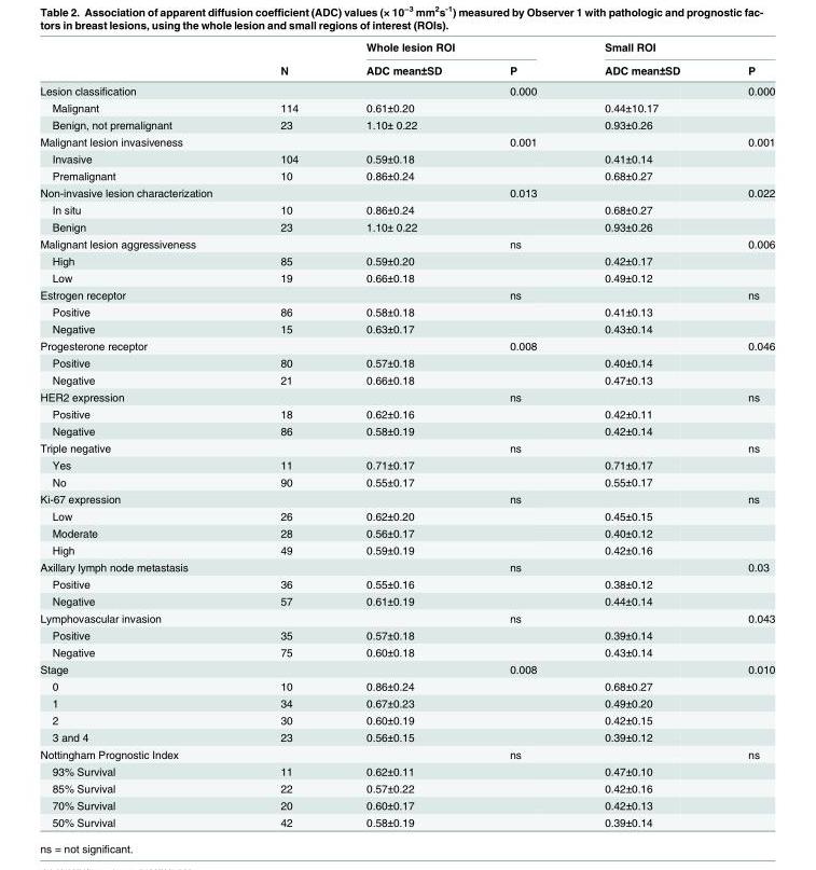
<table><thead><tr><td rowspan="2"></td><td rowspan="2">N</td><td colspan="2">Whole lesion ROI</td><td colspan="2">Small ROI</td></tr><tr><td>ADC mean±SD</td><td>P</td><td>ADC mean±SD</td><td>P</td></tr></thead><tbody><tr><td>Lesion classification</td><td></td><td></td><td>0.000</td><td></td><td>0.000</td></tr><tr><td>Malignant</td><td>114</td><td>0.61±0.20</td><td></td><td>0.44±10.17</td><td></td></tr><tr><td>Benign, not premalignant</td><td>23</td><td>1.10± 0.22</td><td></td><td>0.93±0.26</td><td></td></tr><tr><td>Malignant lesion invasiveness</td><td></td><td></td><td>0.001</td><td></td><td>0.001</td></tr><tr><td>Invasive</td><td>104</td><td>0.59±0.18</td><td></td><td>0.41±0.14</td><td></td></tr><tr><td>Premalignant</td><td>10</td><td>0.86±0.24</td><td></td><td>0.68±0.27</td><td></td></tr><tr><td>Non-invasive lesion characterization</td><td></td><td></td><td>0.013</td><td></td><td>0.022</td></tr><tr><td>In situ</td><td>10</td><td>0.86±0.24</td><td></td><td>0.68±0.27</td><td></td></tr><tr><td>Benign</td><td>23</td><td>1.10± 0.22</td><td></td><td>0.93±0.26</td><td></td></tr><tr><td>Malignant lesion aggressiveness</td><td></td><td></td><td>ns</td><td></td><td>0.006</td></tr><tr><td>High</td><td>85</td><td>0.59±0.20</td><td></td><td>0.42±0.17</td><td></td></tr><tr><td>Low</td><td>19</td><td>0.66±0.18</td><td></td><td>0.49±0.12</td><td></td></tr><tr><td>Estrogen receptor</td><td></td><td></td><td>ns</td><td></td><td>ns</td></tr><tr><td>Positive</td><td>86</td><td>0.58±0.18</td><td></td><td>0.41±0.13</td><td></td></tr><tr><td>Negative</td><td>15</td><td>0.63±0.17</td><td></td><td>0.43±0.14</td><td></td></tr><tr><td>Progesterone receptor</td><td></td><td></td><td>0.008</td><td></td><td>0.046</td></tr><tr><td>Positive</td><td>80</td><td>0.57±0.18</td><td></td><td>0.40±0.14</td><td></td></tr><tr><td>Negative</td><td>21</td><td>0.66±0.18</td><td></td><td>0.47±0.13</td><td></td></tr><tr><td>HER2 expression</td><td></td><td></td><td>ns</td><td></td><td>ns</td></tr><tr><td>Positive</td><td>18</td><td>0.62±0.16</td><td></td><td>0.42±0.11</td><td></td></tr><tr><td>Negative</td><td>86</td><td>0.58±0.19</td><td></td><td>0.42±0.14</td><td></td></tr><tr><td>Triple negative</td><td></td><td></td><td>ns</td><td></td><td>ns</td></tr><tr><td>Yes</td><td>11</td><td>0.71±0.17</td><td></td><td>0.71±0.17</td><td></td></tr><tr><td>No</td><td>90</td><td>0.55±0.17</td><td></td><td>0.55±0.17</td><td></td></tr><tr><td>Ki-67 expression</td><td></td><td></td><td>ns</td><td></td><td>ns</td></tr><tr><td>Low</td><td>26</td><td>0.62±0.20</td><td></td><td>0.45±0.15</td><td></td></tr><tr><td>Moderate</td><td>28</td><td>0.56±0.17</td><td></td><td>0.40±0.12</td><td></td></tr><tr><td>High</td><td>49</td><td>0.59±0.19</td><td></td><td>0.42±0.16</td><td></td></tr><tr><td>Axillary lymph node metastasis</td><td></td><td></td><td>ns</td><td></td><td>0.03</td></tr><tr><td>Positive</td><td>36</td><td>0.55±0.16</td><td></td><td>0.38±0.12</td><td></td></tr><tr><td>Negative</td><td>57</td><td>0.61±0.19</td><td></td><td>0.44±0.14</td><td></td></tr><tr><td>Lymphovascular invasion</td><td></td><td></td><td>ns</td><td></td><td>0.043</td></tr><tr><td>Positive</td><td>35</td><td>0.57±0.18</td><td></td><td>0.39±0.14</td><td></td></tr><tr><td>Negative</td><td>75</td><td>0.60±0.18</td><td></td><td>0.43±0.14</td><td></td></tr><tr><td>Stage</td><td></td><td></td><td>0.008</td><td></td><td>0.010</td></tr><tr><td>0</td><td>10</td><td>0.86±0.24</td><td></td><td>0.68±0.27</td><td></td></tr><tr><td>1</td><td>34</td><td>0.67±0.23</td><td></td><td>0.49±0.20</td><td></td></tr><tr><td>2</td><td>30</td><td>0.60±0.19</td><td></td><td>0.42±0.15</td><td></td></tr><tr><td>3 and 4</td><td>23</td><td>0.56±0.15</td><td></td><td>0.39±0.12</td><td></td></tr><tr><td>Nottingham Prognostic Index</td><td></td><td></td><td>ns</td><td></td><td>ns</td></tr><tr><td>93% Survival</td><td>11</td><td>0.62±0.11</td><td></td><td>0.47±0.10</td><td></td></tr><tr><td>85% Survival</td><td>22</td><td>0.57±0.22</td><td></td><td>0.42±0.16</td><td></td></tr><tr><td>70% Survival</td><td>20</td><td>0.60±0.17</td><td></td><td>0.42±0.13</td><td></td></tr><tr><td>50% Survival</td><td>42</td><td>0.58±0.19</td><td></td><td>0.39±0.14</td><td></td></tr></tbody></table>